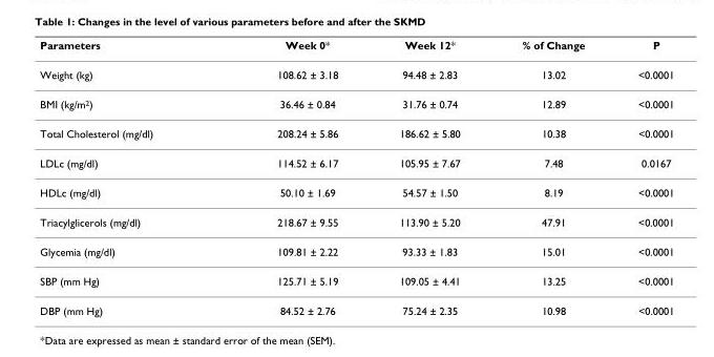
<table><thead><tr><td>Parameters</td><td>Week 0*</td><td>Week 12*</td><td>% of Change</td><td>P</td></tr></thead><tbody><tr><td>Weight (kg)</td><td>108.62 ± 3.18</td><td>94.48 ± 2.83</td><td>13.02</td><td>&lt;0.0001</td></tr><tr><td>BMI (kg/m<sup>2</sup>)</td><td>36.46 ± 0.84</td><td>31.76 ± 0.74</td><td>12.89</td><td>&lt;0.0001</td></tr><tr><td>Total Cholesterol (mg/dl)</td><td>208.24 ± 5.86</td><td>186.62 ± 5.80</td><td>10.38</td><td>&lt;0.0001</td></tr><tr><td>LDLc (mg/dl)</td><td>114.52 ± 6.17</td><td>105.95 ± 7.67</td><td>7.48</td><td>0.0167</td></tr><tr><td>HDLc (mg/dl)</td><td>50.10 ± 1.69</td><td>54.57 ± 1.50</td><td>8.19</td><td>&lt;0.0001</td></tr><tr><td>Triacylglicerols (mg/dl)</td><td>218.67 ± 9.55</td><td>113.90 ± 5.20</td><td>47.91</td><td>&lt;0.0001</td></tr><tr><td>Glycemia (mg/dl)</td><td>109.81 ± 2.22</td><td>93.33 ± 1.83</td><td>15.01</td><td>&lt;0.0001</td></tr><tr><td>SBP (mm Hg)</td><td>125.71 ± 5.19</td><td>109.05 ± 4.41</td><td>13.25</td><td>&lt;0.0001</td></tr><tr><td>DBP (mm Hg)</td><td>84.52 ± 2.76</td><td>75.24 ± 2.35</td><td>10.98</td><td>&lt;0.0001</td></tr></tbody></table>